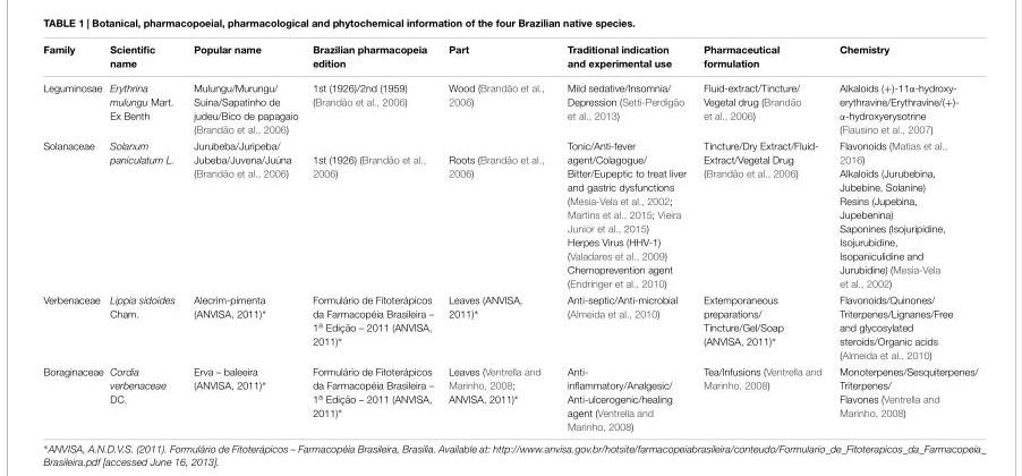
<table><thead><tr><td>Family</td><td>Scientific name</td><td>Popular name</td><td>Brazilian pharmacopeia edition</td><td>Part</td><td>Traditional indication and experimental use</td><td>Pharmaceutical formulation</td><td>Chemistry</td></tr></thead><tbody><tr><td>Leguminosae</td><td>Erythrina mulungu Mart. Ex Benth</td><td>Mulungu/Murungu/ Suina/Sapatinho de judeu/Bico de papagaio (Brandão et al., 2006)</td><td>1st (1926)/2nd (1959) (Brandão et al., 2006)</td><td>Wood (Brandão et al., 2006)</td><td>Mild sedative/Insomnia/ Depression (Setti-Perdigão et al., 2013)</td><td>Fluid-extract/Tincture/ Vegetal drug (Brandão et al., 2006)</td><td>Alkaloids (+)-11α-hydroxy- erythravine/Erythravine/(+)- α-hydroxyerysotrine (Flausino et al., 2007)</td></tr><tr><td>Solanaceae</td><td>Solanum paniculatum L.</td><td>Jurubeba/Juripeba/ Jubeba/Juvena/Juúna (Brandão et al., 2006)</td><td>1st (1926) (Brandão et al., 2006)</td><td>Roots (Brandão et al., 2006)</td><td>Tonic/Anti-fever agent/Colagogue/ Bitter/Eupeptic to treat liver and gastric dysfunctions (Mesia-Vela et al., 2002; Martins et al., 2015; Vieira Junior et al., 2015) Herpes Virus (HHV-1) (Valadares et al., 2009) Chemoprevention agent (Endringer et al., 2010)</td><td>Tincture/Dry Extract/Fluid- Extract/Vegetal Drug (Brandão et al., 2006)</td><td>Flavonoids (Matias et al., 2016) Alkaloids (Jurubebina, Jubebine, Solanine) Resins (Jupebina, Jupebenina) Saponines (Isojuripidine, Isojurubidine, Isopaniculidine and Jurubidine) (Mesia-Vela et al., 2002)</td></tr><tr><td>Verbenaceae</td><td>Lippia sidoides Cham.</td><td>Alecrim-pimenta (ANVISA, 2011)∗</td><td>Formulário de Fitoterápicos da Farmacopéia Brasileira – 1<sup>a</sup> Edição – 2011 (ANVISA, 2011)∗</td><td>Leaves (ANVISA, 2011)∗</td><td>Anti-septic/Anti-microbial (Almeida et al., 2010)</td><td>Extemporaneous preparations/ Tincture/Gel/Soap (ANVISA, 2011)∗</td><td>Flavonoids/Quinones/ Triterpenes/Lignanes/Free and glycosylated steroids/Organic acids (Almeida et al., 2010)</td></tr><tr><td>Boraginaceae</td><td>Cordia verbenaceae DC.</td><td>Erva – baleeira (ANVISA, 2011)∗</td><td>Formulário de Fitoterápicos da Farmacopéia Brasileira – 1<sup>a</sup> Edição – 2011 (ANVISA, 2011)∗</td><td>Leaves (Ventrella and Marinho, 2008; ANVISA, 2011)∗</td><td>Anti- inflammatory/Analgesic/ Anti-ulcerogenic/healing agent (Ventrella and Marinho, 2008)</td><td>Tea/Infusions (Ventrella and Marinho, 2008)</td><td>Monoterpenes/Sesquiterpenes/ Triterpenes/ Flavones (Ventrella and Marinho, 2008)</td></tr></tbody></table>